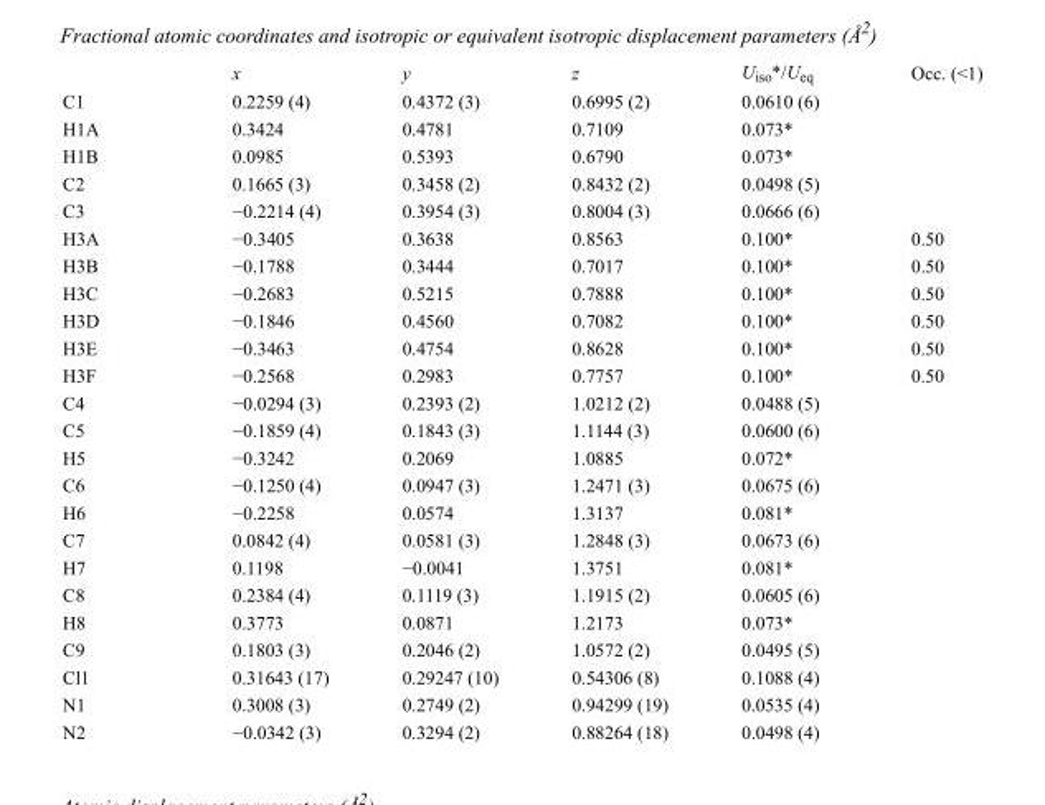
<table><thead><tr><td></td><td>x</td><td>y</td><td>z</td><td>U<sub>iso</sub>*/U<sub>eq</sub></td><td>Occ. (&lt;1)</td></tr></thead><tbody><tr><td>C1</td><td>0.2259 (4)</td><td>0.4372 (3)</td><td>0.6995 (2)</td><td>0.0610 (6)</td><td></td></tr><tr><td>H1A</td><td>0.3424</td><td>0.4781</td><td>0.7109</td><td>0.073*</td><td></td></tr><tr><td>H1B</td><td>0.0985</td><td>0.5393</td><td>0.6790</td><td>0.073*</td><td></td></tr><tr><td>C2</td><td>0.1665 (3)</td><td>0.3458 (2)</td><td>0.8432 (2)</td><td>0.0498 (5)</td><td></td></tr><tr><td>C3</td><td>−0.2214 (4)</td><td>0.3954 (3)</td><td>0.8004 (3)</td><td>0.0666 (6)</td><td></td></tr><tr><td>H3A</td><td>−0.3405</td><td>0.3638</td><td>0.8563</td><td>0.100*</td><td>0.50</td></tr><tr><td>H3B</td><td>−0.1788</td><td>0.3444</td><td>0.7017</td><td>0.100*</td><td>0.50</td></tr><tr><td>H3C</td><td>−0.2683</td><td>0.5215</td><td>0.7888</td><td>0.100*</td><td>0.50</td></tr><tr><td>H3D</td><td>−0.1846</td><td>0.4560</td><td>0.7082</td><td>0.100*</td><td>0.50</td></tr><tr><td>H3E</td><td>−0.3463</td><td>0.4754</td><td>0.8628</td><td>0.100*</td><td>0.50</td></tr><tr><td>H3F</td><td>−0.2568</td><td>0.2983</td><td>0.7757</td><td>0.100*</td><td>0.50</td></tr><tr><td>C4</td><td>−0.0294 (3)</td><td>0.2393 (2)</td><td>1.0212 (2)</td><td>0.0488 (5)</td><td></td></tr><tr><td>C5</td><td>−0.1859 (4)</td><td>0.1843 (3)</td><td>1.1144 (3)</td><td>0.0600 (6)</td><td></td></tr><tr><td>H5</td><td>−0.3242</td><td>0.2069</td><td>1.0885</td><td>0.072*</td><td></td></tr><tr><td>C6</td><td>−0.1250 (4)</td><td>0.0947 (3)</td><td>1.2471 (3)</td><td>0.0675 (6)</td><td></td></tr><tr><td>H6</td><td>−0.2258</td><td>0.0574</td><td>1.3137</td><td>0.081*</td><td></td></tr><tr><td>C7</td><td>0.0842 (4)</td><td>0.0581 (3)</td><td>1.2848 (3)</td><td>0.0673 (6)</td><td></td></tr><tr><td>H7</td><td>0.1198</td><td>−0.0041</td><td>1.3751</td><td>0.081*</td><td></td></tr><tr><td>C8</td><td>0.2384 (4)</td><td>0.1119 (3)</td><td>1.1915 (2)</td><td>0.0605 (6)</td><td></td></tr><tr><td>H8</td><td>0.3773</td><td>0.0871</td><td>1.2173</td><td>0.073*</td><td></td></tr><tr><td>C9</td><td>0.1803 (3)</td><td>0.2046 (2)</td><td>1.0572 (2)</td><td>0.0495 (5)</td><td></td></tr><tr><td>Cl1</td><td>0.31643 (17)</td><td>0.29247 (10)</td><td>0.54306 (8)</td><td>0.1088 (4)</td><td></td></tr><tr><td>N1</td><td>0.3008 (3)</td><td>0.2749 (2)</td><td>0.94299 (19)</td><td>0.0535 (4)</td><td></td></tr><tr><td>N2</td><td>−0.0342 (3)</td><td>0.3294 (2)</td><td>0.88264 (18)</td><td>0.0498 (4)</td><td></td></tr></tbody></table>